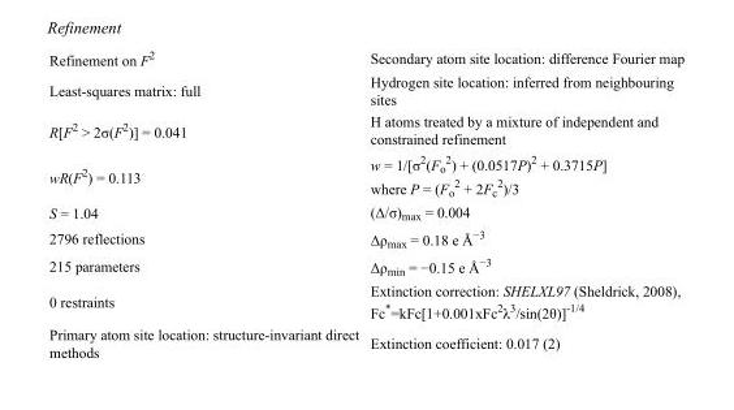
<table><tbody><tr><td>Refinement on F<sup>2</sup></td><td>Secondary atom site location: difference Fourier map</td></tr><tr><td>Least-squares matrix: full</td><td>Hydrogen site location: inferred from neighbouring sites</td></tr><tr><td>R[F<sup>2</sup> &gt; 2σ(F<sup>2</sup>)] = 0.041</td><td>H atoms treated by a mixture of independent and constrained refinement</td></tr><tr><td>wR(F<sup>2</sup>) = 0.113</td><td>w = 1/[σ<sup>2</sup>(F<sub>o</sub> <sup>2</sup>) + (0.0517P)<sup>2</sup> + 0.3715P] where P = (F<sub>o</sub> <sup>2</sup> + 2F<sub>c</sub> <sup>2</sup>)/3</td></tr><tr><td>S = 1.04</td><td>(Δ/σ)<sub>max</sub> = 0.004</td></tr><tr><td>2796 reflections</td><td>Δρ<sub>max</sub> = 0.18 e Å<sup>−3</sup></td></tr><tr><td>215 parameters</td><td>Δρ<sub>min</sub> = −0.15 e Å<sup>−3</sup></td></tr><tr><td>0 restraints</td><td>Extinction correction: SHELXL97 (Sheldrick, 2008), Fc*=kFc[1+0.001xFc<sup>2</sup>λ<sup>3</sup>/sin(2θ)]<sup>-1/4</sup></td></tr><tr><td>Primary atom site location: structure-invariant direct methods</td><td>Extinction coefficient: 0.017 (2)</td></tr></tbody></table>